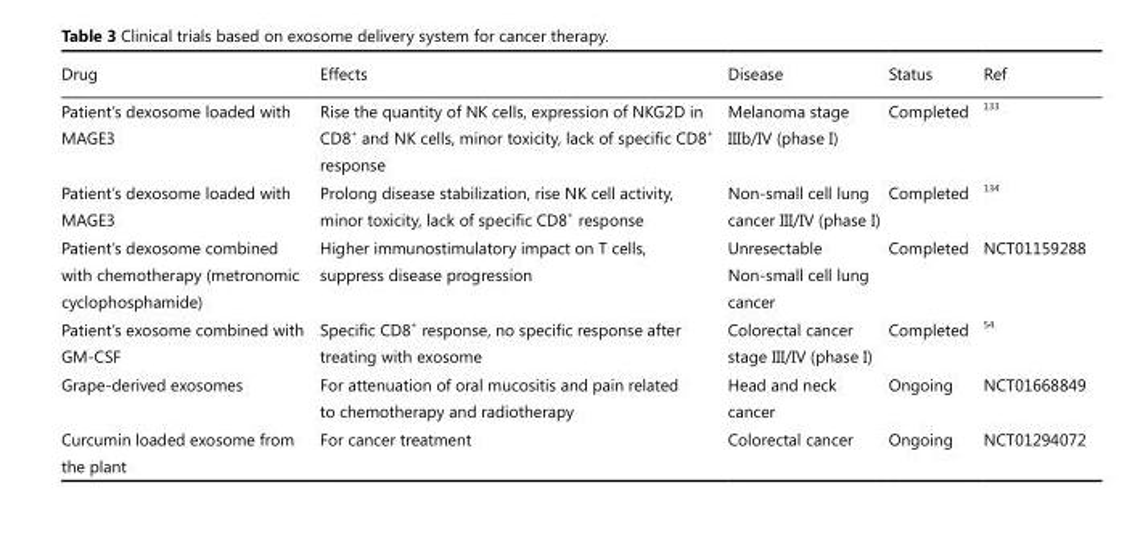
<table><thead><tr><td>Drug</td><td>Effects</td><td>Disease</td><td>Status</td><td>Ref</td></tr></thead><tbody><tr><td>Patient’s dexosome loaded with MAGE3</td><td>Rise the quantity of NK cells, expression of NKG2D in CD8 <sup>+</sup> and NK cells, minor toxicity, lack of specific CD8 <sup>+</sup> response</td><td>Melanoma stage IIIb/IV (phase I)</td><td>Completed</td><td><sup>133</sup></td></tr><tr><td>Patient’s dexosome loaded with MAGE3</td><td>Prolong disease stabilization, rise NK cell activity, minor toxicity, lack of specific CD8 <sup>+</sup> response</td><td>Non-small cell lung cancer III/IV (phase I)</td><td>Completed</td><td><sup>134</sup></td></tr><tr><td>Patient’s dexosome combined with chemotherapy (metronomic cyclophosphamide)</td><td>Higher immunostimulatory impact on T cells, suppress disease progression</td><td>Unresectable Non-small cell lung cancer</td><td>Completed</td><td>NCT01159288</td></tr><tr><td>Patient’s exosome combined with GM-CSF</td><td>Specific CD8 <sup>+</sup> response, no specific response after treating with exosome</td><td>Colorectal cancer stage III/IV (phase I)</td><td>Completed</td><td><sup>54</sup></td></tr><tr><td>Grape-derived exosomes</td><td>For attenuation of oral mucositis and pain related to chemotherapy and radiotherapy</td><td>Head and neck cancer</td><td>Ongoing</td><td>NCT01668849</td></tr><tr><td>Curcumin loaded exosome from the plant</td><td>For cancer treatment</td><td>Colorectal cancer</td><td>Ongoing</td><td>NCT01294072</td></tr></tbody></table>